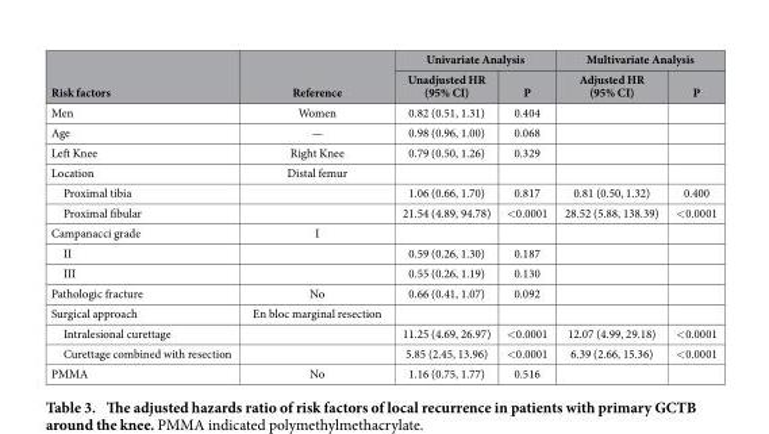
<table><thead><tr><td rowspan="2">Risk factors</td><td rowspan="2">Reference</td><td colspan="2">Univariate Analysis</td><td colspan="2">Multivariate Analysis</td></tr><tr><td>Unadjusted HR (95% CI)</td><td>P</td><td>Adjusted HR (95% CI)</td><td>P</td></tr></thead><tbody><tr><td>Men</td><td>Women</td><td>0.82 (0.51, 1.31)</td><td>0.404</td><td></td><td></td></tr><tr><td>Age</td><td>—</td><td>0.98 (0.96, 1.00)</td><td>0.068</td><td></td><td></td></tr><tr><td>Left Knee</td><td>Right Knee</td><td>0.79 (0.50, 1.26)</td><td>0.329</td><td></td><td></td></tr><tr><td>Location</td><td>Distal femur</td><td></td><td></td><td></td><td></td></tr><tr><td>Proximal tibia</td><td></td><td>1.06 (0.66, 1.70)</td><td>0.817</td><td>0.81 (0.50, 1.32)</td><td>0.400</td></tr><tr><td>Proximal fibular</td><td></td><td>21.54 (4.89, 94.78)</td><td>&lt; 0.0001</td><td>28.52 (5.88, 138.39)</td><td>&lt; 0.0001</td></tr><tr><td>Campanacci grade</td><td>I</td><td></td><td></td><td></td><td></td></tr><tr><td>II</td><td></td><td>0.59 (0.26, 1.30)</td><td>0.187</td><td></td><td></td></tr><tr><td>III</td><td></td><td>0.55 (0.26, 1.19)</td><td>0.130</td><td></td><td></td></tr><tr><td>Pathologic fracture</td><td>No</td><td>0.66 (0.41, 1.07)</td><td>0.092</td><td></td><td></td></tr><tr><td>Surgical approach</td><td>En bloc marginal resection</td><td></td><td></td><td></td><td></td></tr><tr><td>Intralesional curettage</td><td></td><td>11.25 (4.69, 26.97)</td><td>&lt; 0.0001</td><td>12.07 (4.99, 29.18)</td><td>&lt; 0.0001</td></tr><tr><td>Curettage combined with resection</td><td></td><td>5.85 (2.45, 13.96)</td><td>&lt; 0.0001</td><td>6.39 (2.66, 15.36)</td><td>&lt; 0.0001</td></tr><tr><td>PMMA</td><td>No</td><td>1.16 (0.75, 1.77)</td><td>0.516</td><td></td><td></td></tr></tbody></table>